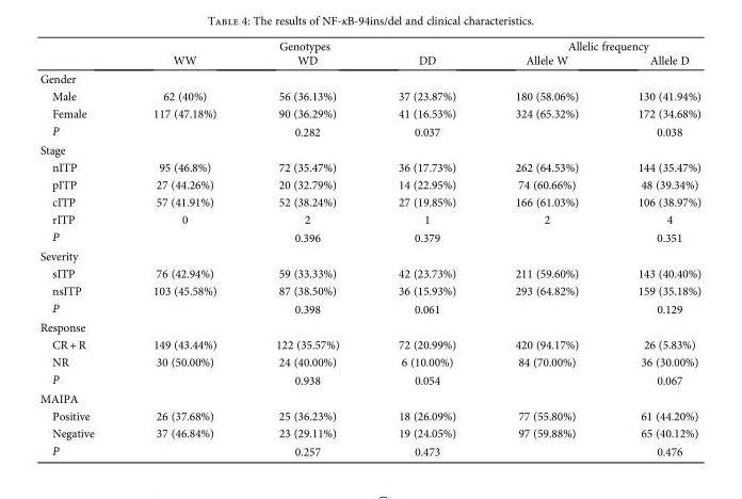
<table><thead><tr><td rowspan="2"></td><td colspan="3">Genotypes</td><td colspan="2">Allelic frequency</td></tr><tr><td>WW</td><td>WD</td><td>DD</td><td>Allele W</td><td>Allele D</td></tr></thead><tbody><tr><td colspan="6">Gender</td></tr><tr><td>Male</td><td>62 (40%)</td><td>56 (36.13%)</td><td>37 (23.87%)</td><td>180 (58.06%)</td><td>130 (41.94%)</td></tr><tr><td>Female</td><td>117 (47.18%)</td><td>90 (36.29%)</td><td>41 (16.53%)</td><td>324 (65.32%)</td><td>172 (34.68%)</td></tr><tr><td>P</td><td></td><td>0.282</td><td>0.037</td><td></td><td>0.038</td></tr><tr><td colspan="6">Stage</td></tr><tr><td>nITP</td><td>95 (46.8%)</td><td>72 (35.47%)</td><td>36 (17.73%)</td><td>262 (64.53%)</td><td>144 (35.47%)</td></tr><tr><td>pITP</td><td>27 (44.26%)</td><td>20 (32.79%)</td><td>14 (22.95%)</td><td>74 (60.66%)</td><td>48 (39.34%)</td></tr><tr><td>cITP</td><td>57 (41.91%)</td><td>52 (38.24%)</td><td>27 (19.85%)</td><td>166 (61.03%)</td><td>106 (38.97%)</td></tr><tr><td>rITP</td><td>0</td><td>2</td><td>1</td><td>2</td><td>4</td></tr><tr><td>P</td><td></td><td>0.396</td><td>0.379</td><td></td><td>0.351</td></tr><tr><td colspan="6">Severity</td></tr><tr><td>sITP</td><td>76 (42.94%)</td><td>59 (33.33%)</td><td>42 (23.73%)</td><td>211 (59.60%)</td><td>143 (40.40%)</td></tr><tr><td>nsITP</td><td>103 (45.58%)</td><td>87 (38.50%)</td><td>36 (15.93%)</td><td>293 (64.82%)</td><td>159 (35.18%)</td></tr><tr><td>P</td><td></td><td>0.398</td><td>0.061</td><td></td><td>0.129</td></tr><tr><td colspan="6">Response</td></tr><tr><td>CR + R</td><td>149 (43.44%)</td><td>122 (35.57%)</td><td>72 (20.99%)</td><td>420 (94.17%)</td><td>26 (5.83%)</td></tr><tr><td>NR</td><td>30 (50.00%)</td><td>24 (40.00%)</td><td>6 (10.00%)</td><td>84 (70.00%)</td><td>36 (30.00%)</td></tr><tr><td>P</td><td></td><td>0.938</td><td>0.054</td><td></td><td>0.067</td></tr><tr><td colspan="6">MAIPA</td></tr><tr><td>Positive</td><td>26 (37.68%)</td><td>25 (36.23%)</td><td>18 (26.09%)</td><td>77 (55.80%)</td><td>61 (44.20%)</td></tr><tr><td>Negative</td><td>37 (46.84%)</td><td>23 (29.11%)</td><td>19 (24.05%)</td><td>97 (59.88%)</td><td>65 (40.12%)</td></tr><tr><td>P</td><td></td><td>0.257</td><td>0.473</td><td></td><td>0.476</td></tr></tbody></table>